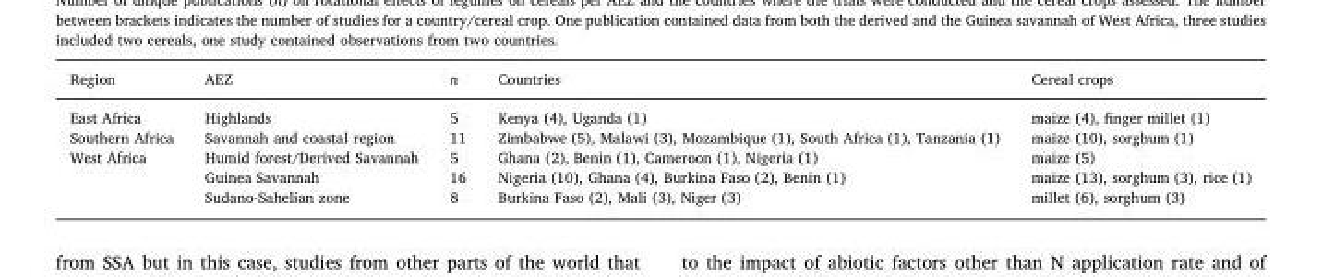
<table><thead><tr><td>Region</td><td>AEZ</td><td>n</td><td>Countries</td><td>Cereal crops</td></tr></thead><tbody><tr><td>East Africa</td><td>Highlands</td><td>5</td><td>Kenya (4), Uganda (1)</td><td>maize (4), finger millet (1)</td></tr><tr><td>Southern Africa</td><td>Savannah and coastal region</td><td>11</td><td>Zimbabwe (5), Malawi (3), Mozambique (1), South Africa (1), Tanzania (1)</td><td>maize (10), sorghum (1)</td></tr><tr><td rowspan="3">West Africa</td><td>Humid forest/Derived Savannah</td><td>5</td><td>Ghana (2), Benin (1), Cameroon (1), Nigeria (1)</td><td>maize (5)</td></tr><tr><td>Guinea Savannah</td><td>16</td><td>Nigeria (10), Ghana (4), Burkina Faso (2), Benin (1)</td><td>maize (13), sorghum (3), rice (1)</td></tr><tr><td>Sudano-Sahelian zone</td><td>8</td><td>Burkina Faso (2), Mali (3), Niger (3)</td><td>millet (6), sorghum (3)</td></tr></tbody></table>